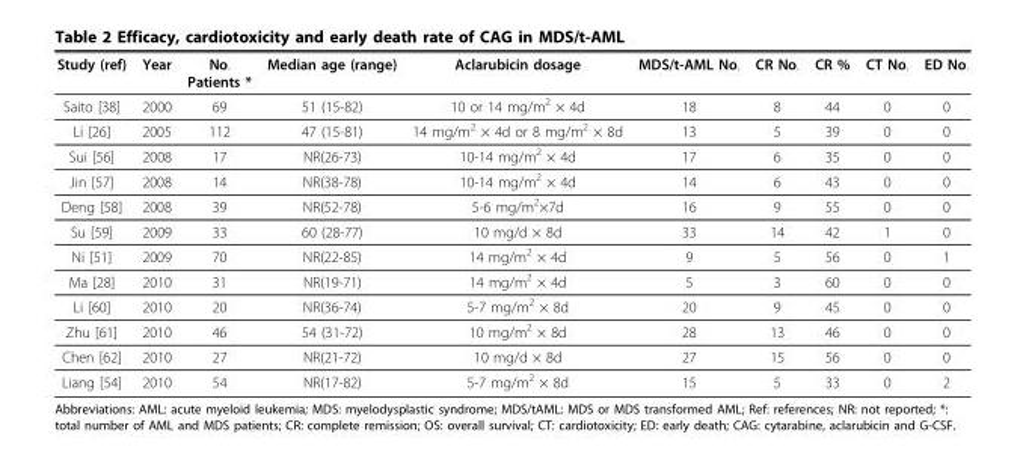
<table><tbody><tr><td>Study (ref)</td><td>Year</td><td>No. Patients *</td><td>Median age (range)</td><td>Aclarubicin dosage</td><td>MDS/t-AML No.</td><td>CR No.</td><td>CR %</td><td>CT No.</td><td>ED No.</td></tr><tr><td>Saito [38]</td><td>2000</td><td>69</td><td>51 (15-82)</td><td>10 or 14 mg/m<sup>2</sup> × 4d</td><td>18</td><td>8</td><td>44</td><td>0</td><td>0</td></tr><tr><td>Li [26]</td><td>2005</td><td>112</td><td>47 (15-81)</td><td>14 mg/m<sup>2</sup> × 4d or 8 mg/m<sup>2</sup> × 8d</td><td>13</td><td>5</td><td>39</td><td>0</td><td>0</td></tr><tr><td>Sui [56]</td><td>2008</td><td>17</td><td>NR(26-73)</td><td>10-14 mg/m<sup>2</sup> × 4d</td><td>17</td><td>6</td><td>35</td><td>0</td><td>0</td></tr><tr><td>Jin [57]</td><td>2008</td><td>14</td><td>NR(38-78)</td><td>10-14 mg/m<sup>2</sup> × 4d</td><td>14</td><td>6</td><td>43</td><td>0</td><td>0</td></tr><tr><td>Deng [58]</td><td>2008</td><td>39</td><td>NR(52-78)</td><td>5-6 mg/m<sup>2</sup>×7d</td><td>16</td><td>9</td><td>55</td><td>0</td><td>0</td></tr><tr><td>Su [59]</td><td>2009</td><td>33</td><td>60 (28-77)</td><td>10 mg/d × 8d</td><td>33</td><td>14</td><td>42</td><td>1</td><td>0</td></tr><tr><td>Ni [51]</td><td>2009</td><td>70</td><td>NR(22-85)</td><td>14 mg/m<sup>2</sup> × 4d</td><td>9</td><td>5</td><td>56</td><td>0</td><td>1</td></tr><tr><td>Ma [28]</td><td>2010</td><td>31</td><td>NR(19-71)</td><td>14 mg/m<sup>2</sup> × 4d</td><td>5</td><td>3</td><td>60</td><td>0</td><td>0</td></tr><tr><td>Li [60]</td><td>2010</td><td>20</td><td>NR(36-74)</td><td>5-7 mg/m<sup>2</sup> × 8d</td><td>20</td><td>9</td><td>45</td><td>0</td><td>0</td></tr><tr><td>Zhu [61]</td><td>2010</td><td>46</td><td>54 (31-72)</td><td>10 mg/m<sup>2</sup> × 8d</td><td>28</td><td>13</td><td>46</td><td>0</td><td>0</td></tr><tr><td>Chen [62]</td><td>2010</td><td>27</td><td>NR(21-72)</td><td>10 mg/d × 8d</td><td>27</td><td>15</td><td>56</td><td>0</td><td>0</td></tr><tr><td>Liang [54]</td><td>2010</td><td>54</td><td>NR(17-82)</td><td>5-7 mg/m<sup>2</sup> × 8d</td><td>15</td><td>5</td><td>33</td><td>0</td><td>2</td></tr></tbody></table>